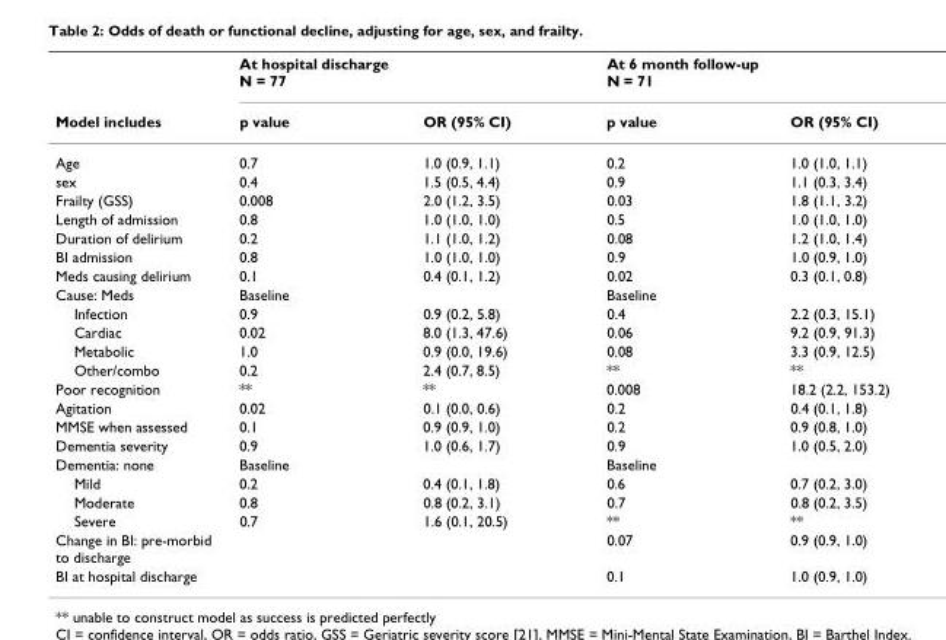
<table><thead><tr><td rowspan="2">Model includes</td><td colspan="2">At hospital discharge N = 77</td><td colspan="2">At 6 month follow-up N = 71</td></tr><tr><td>p value</td><td>OR (95% CI)</td><td>p value</td><td>OR (95% CI)</td></tr></thead><tbody><tr><td>Age</td><td>0.7</td><td>1.0 (0.9, 1.1)</td><td>0.2</td><td>1.0 (1.0, 1.1)</td></tr><tr><td>sex</td><td>0.4</td><td>1.5 (0.5, 4.4)</td><td>0.9</td><td>1.1 (0.3, 3.4)</td></tr><tr><td>Frailty (GSS)</td><td>0.008</td><td>2.0 (1.2, 3.5)</td><td>0.03</td><td>1.8 (1.1, 3.2)</td></tr><tr><td>Length of admission</td><td>0.8</td><td>1.0 (1.0, 1.0)</td><td>0.5</td><td>1.0 (1.0, 1.0)</td></tr><tr><td>Duration of delirium</td><td>0.2</td><td>1.1 (1.0, 1.2)</td><td>0.08</td><td>1.2 (1.0, 1.4)</td></tr><tr><td>BI admission</td><td>0.8</td><td>1.0 (1.0, 1.0)</td><td>0.9</td><td>1.0 (0.9, 1.0)</td></tr><tr><td>Meds causing delirium</td><td>0.1</td><td>0.4 (0.1, 1.2)</td><td>0.02</td><td>0.3 (0.1, 0.8)</td></tr><tr><td>Cause: Meds</td><td>Baseline</td><td></td><td>Baseline</td><td></td></tr><tr><td>Infection</td><td>0.9</td><td>0.9 (0.2, 5.8)</td><td>0.4</td><td>2.2 (0.3, 15.1)</td></tr><tr><td>Cardiac</td><td>0.02</td><td>8.0 (1.3, 47.6)</td><td>0.06</td><td>9.2 (0.9, 91.3)</td></tr><tr><td>Metabolic</td><td>1.0</td><td>0.9 (0.0, 19.6)</td><td>0.08</td><td>3.3 (0.9, 12.5)</td></tr><tr><td>Other/combo</td><td>0.2</td><td>2.4 (0.7, 8.5)</td><td>**</td><td>**</td></tr><tr><td>Poor recognition</td><td>**</td><td>**</td><td>0.008</td><td>18.2 (2.2, 153.2)</td></tr><tr><td>Agitation</td><td>0.02</td><td>0.1 (0.0, 0.6)</td><td>0.2</td><td>0.4 (0.1, 1.8)</td></tr><tr><td>MMSE when assessed</td><td>0.1</td><td>0.9 (0.9, 1.0)</td><td>0.2</td><td>0.9 (0.8, 1.0)</td></tr><tr><td>Dementia severity</td><td>0.9</td><td>1.0 (0.6, 1.7)</td><td>0.9</td><td>1.0 (0.5, 2.0)</td></tr><tr><td>Dementia: none</td><td>Baseline</td><td></td><td>Baseline</td><td></td></tr><tr><td>Mild</td><td>0.2</td><td>0.4 (0.1, 1.8)</td><td>0.6</td><td>0.7 (0.2, 3.0)</td></tr><tr><td>Moderate</td><td>0.8</td><td>0.8 (0.2, 3.1)</td><td>0.7</td><td>0.8 (0.2, 3.5)</td></tr><tr><td>Severe</td><td>0.7</td><td>1.6 (0.1, 20.5)</td><td>**</td><td>**</td></tr><tr><td>Change in BI: pre-morbid to discharge</td><td></td><td></td><td>0.07</td><td>0.9 (0.9, 1.0)</td></tr><tr><td>BI at hospital discharge</td><td></td><td></td><td>0.1</td><td>1.0 (0.9, 1.0)</td></tr></tbody></table>